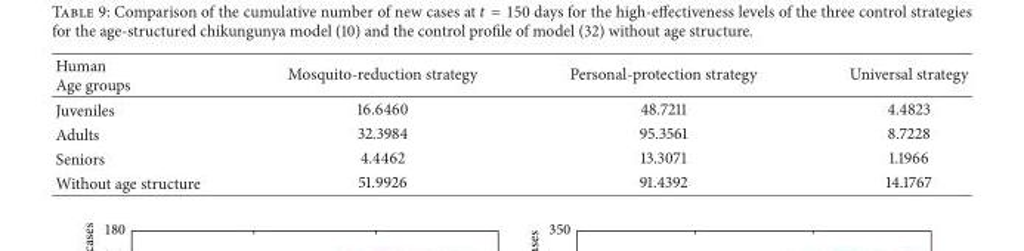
<table><thead><tr><td>Human Age groups</td><td>Mosquito-reduction strategy</td><td>Personal-protection strategy</td><td>Universal strategy</td></tr></thead><tbody><tr><td>Juveniles</td><td>16.6460</td><td>48.7211</td><td>4.4823</td></tr><tr><td>Adults</td><td>32.3984</td><td>95.3561</td><td>8.7228</td></tr><tr><td>Seniors</td><td>4.4462</td><td>13.3071</td><td>1.1966</td></tr><tr><td>Without age structure</td><td>51.9926</td><td>91.4392</td><td>14.1767</td></tr></tbody></table>